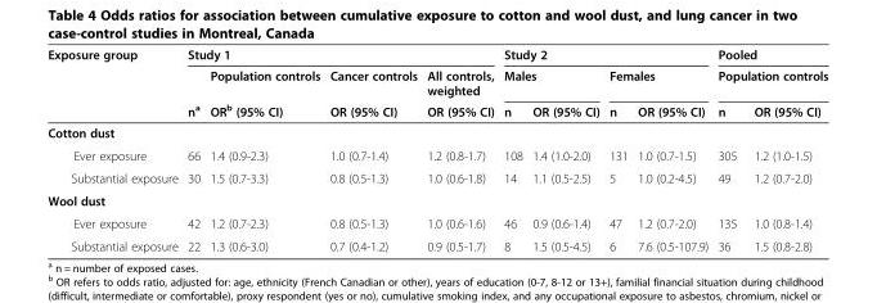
<table><thead><tr><td rowspan="3">Exposure group</td><td colspan="4">Study 1</td><td colspan="4">Study 2</td><td rowspan="2" colspan="2">Pooled Population controls</td></tr><tr><td rowspan="2">n<sup>a</sup></td><td rowspan="2">Population controls OR<sup>b</sup> (95% CI)</td><td rowspan="2">Cancer controls OR (95% CI)</td><td rowspan="2">All controls, weighted OR (95% CI)</td><td colspan="2">Males</td><td colspan="2">Females</td></tr><tr><td>n</td><td>OR (95% CI)</td><td>n</td><td>OR (95% CI)</td><td>n</td><td>OR (95% CI)</td></tr></thead><tbody><tr><td colspan="11">Cotton dust</td></tr><tr><td>Ever exposure</td><td>66</td><td>1.4 (0.9-2.3)</td><td>1.0 (0.7-1.4)</td><td>1.2 (0.8-1.7)</td><td>108</td><td>1.4 (1.0-2.0)</td><td>131</td><td>1.0 (0.7-1.5)</td><td>305</td><td>1.2 (1.0-1.5)</td></tr><tr><td>Substantial exposure</td><td>30</td><td>1.5 (0.7-3.3)</td><td>0.8 (0.5-1.3)</td><td>1.0 (0.6-1.8)</td><td>14</td><td>1.1 (0.5-2.5)</td><td>5</td><td>1.0 (0.2-4.5)</td><td>49</td><td>1.2 (0.7-2.0)</td></tr><tr><td colspan="11">Wool dust</td></tr><tr><td>Ever exposure</td><td>42</td><td>1.2 (0.7-2.3)</td><td>0.8 (0.5-1.3)</td><td>1.0 (0.6-1.6)</td><td>46</td><td>0.9 (0.6-1.4)</td><td>47</td><td>1.2 (0.7-2.0)</td><td>135</td><td>1.0 (0.8-1.4)</td></tr><tr><td>Substantial exposure</td><td>22</td><td>1.3 (0.6-3.0)</td><td>0.7 (0.4-1.2)</td><td>0.9 (0.5-1.7)</td><td>8</td><td>1.5 (0.5-4.5)</td><td>6</td><td>7.6 (0.5-107.9)</td><td>36</td><td>1.5 (0.8-2.8)</td></tr></tbody></table>